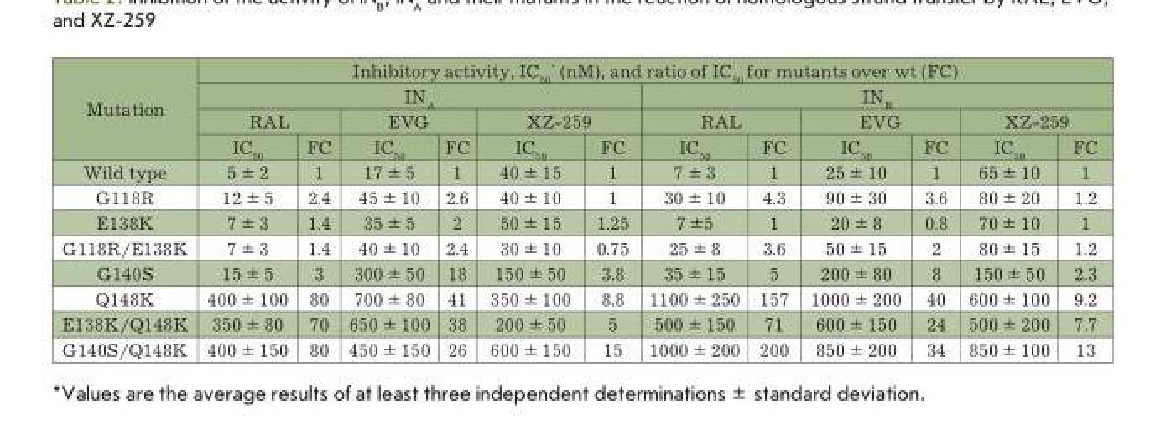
<table><thead><tr><td rowspan="4">Mutation</td><td colspan="12">Inhibitory activity, IC<sub>50</sub> * (nM), and ratio of IC<sub>50</sub> for mutants over wt (FC)</td></tr><tr><td colspan="6">IN<sub>A</sub></td><td colspan="6">IN<sub>B</sub></td></tr><tr><td colspan="2">RAL</td><td colspan="2">EVG</td><td colspan="2">XZ-259</td><td colspan="2">RAL</td><td colspan="2">EVG</td><td colspan="2">XZ-259</td></tr><tr><td>IC<sub>50</sub></td><td>FC</td><td>IC<sub>50</sub></td><td>FC</td><td>IC<sub>50</sub></td><td>FC</td><td>IC<sub>50</sub></td><td>FC</td><td>IC<sub>50</sub></td><td>FC</td><td>IC<sub>50</sub></td><td>FC</td></tr></thead><tbody><tr><td>Wild type</td><td>5 ± 2</td><td>1</td><td>17 ± 5</td><td>1</td><td>40 ± 15</td><td>1</td><td>7 ± 3</td><td>1</td><td>25 ± 10</td><td>1</td><td>65 ± 10</td><td>1</td></tr><tr><td>G118R</td><td>12 ± 5</td><td>2.4</td><td>45 ± 10</td><td>2.6</td><td>40 ± 10</td><td>1</td><td>30 ± 10</td><td>4.3</td><td>90 ± 30</td><td>3.6</td><td>80 ± 20</td><td>1.2</td></tr><tr><td>E138K</td><td>7 ± 3</td><td>1.4</td><td>35 ± 5</td><td>2</td><td>50 ± 15</td><td>1.25</td><td>7 ±5</td><td>1</td><td>20 ± 8</td><td>0.8</td><td>70 ± 10</td><td>1</td></tr><tr><td>G118R/E138K</td><td>7 ± 3</td><td>1.4</td><td>40 ± 10</td><td>2.4</td><td>30 ± 10</td><td>0.75</td><td>25 ± 8</td><td>3.6</td><td>50 ± 15</td><td>2</td><td>80 ± 15</td><td>1.2</td></tr><tr><td>G140S</td><td>15 ± 5</td><td>3</td><td>300 ± 50</td><td>18</td><td>150 ± 50</td><td>3.8</td><td>35 ± 15</td><td>5</td><td>200 ± 80</td><td>8</td><td>150 ± 50</td><td>2.3</td></tr><tr><td>Q148K</td><td>400 ± 100</td><td>80</td><td>700 ± 80</td><td>41</td><td>350 ± 100</td><td>8.8</td><td>1100 ± 250</td><td>157</td><td>1000 ± 200</td><td>40</td><td>600 ± 100</td><td>9.2</td></tr><tr><td>E138K/Q148K</td><td>350 ± 80</td><td>70</td><td>650 ± 100</td><td>38</td><td>200 ± 50</td><td>5</td><td>500 ± 150</td><td>71</td><td>600 ± 150</td><td>24</td><td>500 ± 200</td><td>7.7</td></tr><tr><td>G140S/Q148K</td><td>400 ± 150</td><td>80</td><td>450 ± 150</td><td>26</td><td>600 ± 150</td><td>15</td><td>1000 ± 200</td><td>200</td><td>850 ± 200</td><td>34</td><td>850 ± 100</td><td>13</td></tr></tbody></table>